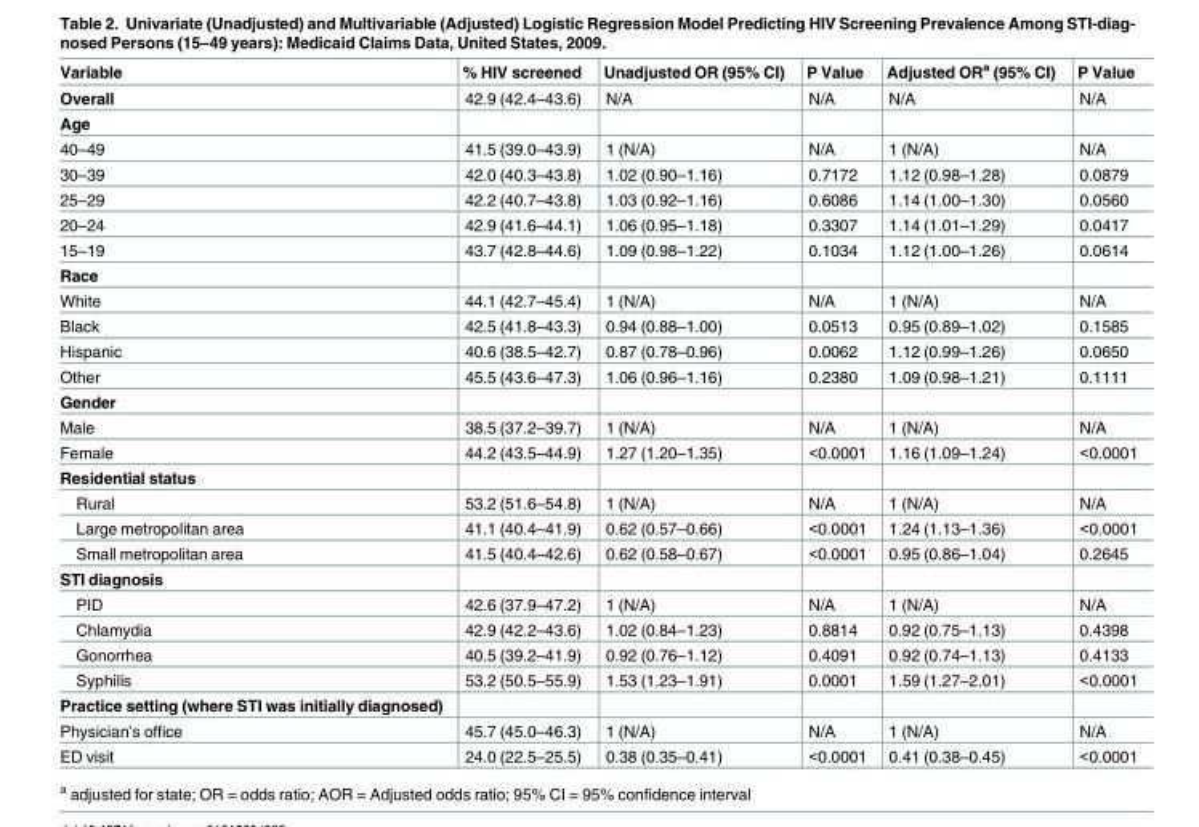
<table><thead><tr><td>Variable</td><td>% HIV screened</td><td>Unadjusted OR (95% CI)</td><td>P Value</td><td>Adjusted OR<sup>a</sup> (95% CI)</td><td>P Value</td></tr></thead><tbody><tr><td>Overall</td><td>42.9 (42.4–43.6)</td><td>N/A</td><td>N/A</td><td>N/A</td><td>N/A</td></tr><tr><td colspan="6">Age</td></tr><tr><td>40–49</td><td>41.5 (39.0–43.9)</td><td>1 (N/A)</td><td>N/A</td><td>1 (N/A)</td><td>N/A</td></tr><tr><td>30–39</td><td>42.0 (40.3–43.8)</td><td>1.02 (0.90–1.16)</td><td>0.7172</td><td>1.12 (0.98–1.28)</td><td>0.0879</td></tr><tr><td>25–29</td><td>42.2 (40.7–43.8)</td><td>1.03 (0.92–1.16)</td><td>0.6086</td><td>1.14 (1.00–1.30)</td><td>0.0560</td></tr><tr><td>20–24</td><td>42.9 (41.6–44.1)</td><td>1.06 (0.95–1.18)</td><td>0.3307</td><td>1.14 (1.01–1.29)</td><td>0.0417</td></tr><tr><td>15–19</td><td>43.7 (42.8–44.6)</td><td>1.09 (0.98–1.22)</td><td>0.1034</td><td>1.12 (1.00–1.26)</td><td>0.0614</td></tr><tr><td colspan="6">Race</td></tr><tr><td>White</td><td>44.1 (42.7–45.4)</td><td>1 (N/A)</td><td>N/A</td><td>1 (N/A)</td><td>N/A</td></tr><tr><td>Black</td><td>42.5 (41.8–43.3)</td><td>0.94 (0.88–1.00)</td><td>0.0513</td><td>0.95 (0.89–1.02)</td><td>0.1585</td></tr><tr><td>Hispanic</td><td>40.6 (38.5–42.7)</td><td>0.87 (0.78–0.96)</td><td>0.0062</td><td>1.12 (0.99–1.26)</td><td>0.0650</td></tr><tr><td>Other</td><td>45.5 (43.6–47.3)</td><td>1.06 (0.96–1.16)</td><td>0.2380</td><td>1.09 (0.98–1.21)</td><td>0.1111</td></tr><tr><td colspan="6">Gender</td></tr><tr><td>Male</td><td>38.5 (37.2–39.7)</td><td>1 (N/A)</td><td>N/A</td><td>1 (N/A)</td><td>N/A</td></tr><tr><td>Female</td><td>44.2 (43.5–44.9)</td><td>1.27 (1.20–1.35)</td><td>&lt;0.0001</td><td>1.16 (1.09–1.24)</td><td>&lt;0.0001</td></tr><tr><td colspan="6">Residential status</td></tr><tr><td>Rural</td><td>53.2 (51.6–54.8)</td><td>1 (N/A)</td><td>N/A</td><td>1 (N/A)</td><td>N/A</td></tr><tr><td>Large metropolitan area</td><td>41.1 (40.4–41.9)</td><td>0.62 (0.57–0.66)</td><td>&lt;0.0001</td><td>1.24 (1.13–1.36)</td><td>&lt;0.0001</td></tr><tr><td>Small metropolitan area</td><td>41.5 (40.4–42.6)</td><td>0.62 (0.58–0.67)</td><td>&lt;0.0001</td><td>0.95 (0.86–1.04)</td><td>0.2645</td></tr><tr><td colspan="6">STI diagnosis</td></tr><tr><td>PID</td><td>42.6 (37.9–47.2)</td><td>1 (N/A)</td><td>N/A</td><td>1 (N/A)</td><td>N/A</td></tr><tr><td>Chlamydia</td><td>42.9 (42.2–43.6)</td><td>1.02 (0.84–1.23)</td><td>0.8814</td><td>0.92 (0.75–1.13)</td><td>0.4398</td></tr><tr><td>Gonorrhea</td><td>40.5 (39.2–41.9)</td><td>0.92 (0.76–1.12)</td><td>0.4091</td><td>0.92 (0.74–1.13)</td><td>0.4133</td></tr><tr><td>Syphilis</td><td>53.2 (50.5–55.9)</td><td>1.53 (1.23–1.91)</td><td>0.0001</td><td>1.59 (1.27–2.01)</td><td>&lt;0.0001</td></tr><tr><td colspan="6">Practice setting (where STI was initially diagnosed)</td></tr><tr><td>Physician’s office</td><td>45.7 (45.0–46.3)</td><td>1 (N/A)</td><td>N/A</td><td>1 (N/A)</td><td>N/A</td></tr><tr><td>ED visit</td><td>24.0 (22.5–25.5)</td><td>0.38 (0.35–0.41)</td><td>&lt;0.0001</td><td>0.41 (0.38–0.45)</td><td>&lt;0.0001</td></tr></tbody></table>